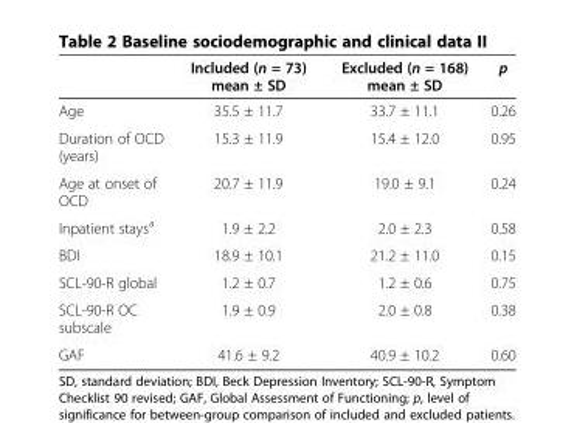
<table><thead><tr><td></td><td>Included (n = 73) mean ± SD</td><td>Excluded (n = 168) mean ± SD</td><td>p</td></tr></thead><tbody><tr><td>Age</td><td>35.5 ± 11.7</td><td>33.7 ± 11.1</td><td>0.26</td></tr><tr><td>Duration of OCD (years)</td><td>15.3 ± 11.9</td><td>15.4 ± 12.0</td><td>0.95</td></tr><tr><td>Age at onset of OCD</td><td>20.7 ± 11.9</td><td>19.0 ± 9.1</td><td>0.24</td></tr><tr><td>Inpatient stays<sup>a</sup></td><td>1.9 ± 2.2</td><td>2.0 ± 2.3</td><td>0.58</td></tr><tr><td>BDI</td><td>18.9 ± 10.1</td><td>21.2 ± 11.0</td><td>0.15</td></tr><tr><td>SCL-90-R global</td><td>1.2 ± 0.7</td><td>1.2 ± 0.6</td><td>0.75</td></tr><tr><td>SCL-90-R OC subscale</td><td>1.9 ± 0.9</td><td>2.0 ± 0.8</td><td>0.38</td></tr><tr><td>GAF</td><td>41.6 ± 9.2</td><td>40.9 ± 10.2</td><td>0.60</td></tr></tbody></table>